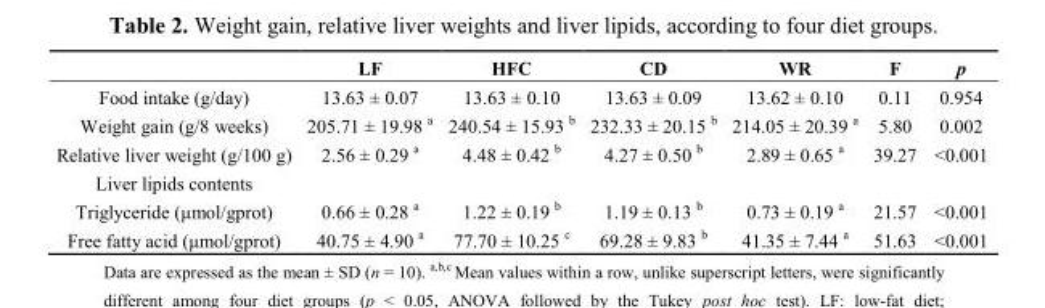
<table><thead><tr><td></td><td>LF</td><td>HFC</td><td>CD</td><td>WR</td><td>F</td><td>p</td></tr></thead><tbody><tr><td>Food intake (g/day)</td><td>13.63 ± 0.07</td><td>13.63 ± 0.10</td><td>13.63 ± 0.09</td><td>13.62 ± 0.10</td><td>0.11</td><td>0.954</td></tr><tr><td>Weight gain (g/8 weeks)</td><td>205.71 ± 19.98 <sup>a</sup></td><td>240.54 ± 15.93 <sup>b</sup></td><td>232.33 ± 20.15 <sup>b</sup></td><td>214.05 ± 20.39 <sup>a</sup></td><td>5.80</td><td>0.002</td></tr><tr><td>Relative liver weight (g/100 g)</td><td>2.56 ± 0.29 <sup>a</sup></td><td>4.48 ± 0.42 <sup>b</sup></td><td>4.27 ± 0.50 <sup>b</sup></td><td>2.89 ± 0.65 <sup>a</sup></td><td>39.27</td><td>&lt;0.001</td></tr><tr><td colspan="7">Liver lipids contents</td></tr><tr><td>Triglyceride (μmol/gprot)</td><td>0.66 ± 0.28 <sup>a</sup></td><td>1.22 ± 0.19 <sup>b</sup></td><td>1.19 ± 0.13 <sup>b</sup></td><td>0.73 ± 0.19 <sup>a</sup></td><td>21.57</td><td>&lt;0.001</td></tr><tr><td>Free fatty acid (μmol/gprot)</td><td>40.75 ± 4.90 <sup>a</sup></td><td>77.70 ± 10.25 <sup>c</sup></td><td>69.28 ± 9.83 <sup>b</sup></td><td>41.35 ± 7.44 <sup>a</sup></td><td>51.63</td><td>&lt;0.001</td></tr></tbody></table>